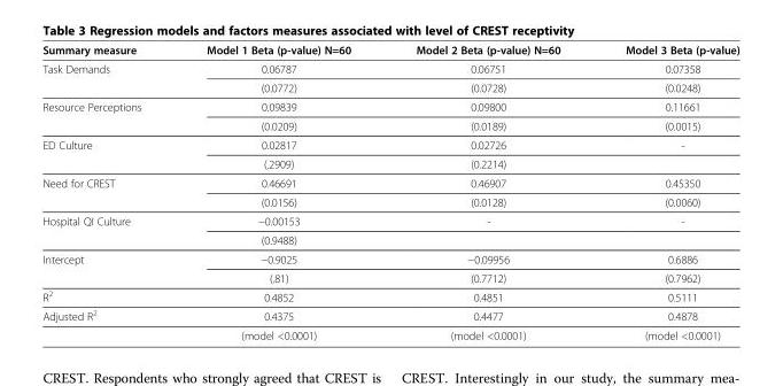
<table><thead><tr><td>Summary measure</td><td>Model 1 Beta (p-value) N=60</td><td>Model 2 Beta (p-value) N=60</td><td>Model 3 Beta (p-value)</td></tr></thead><tbody><tr><td rowspan="2">Task Demands</td><td>0.06787</td><td>0.06751</td><td>0.07358</td></tr><tr><td>(0.0772)</td><td>(0.0728)</td><td>(0.0248)</td></tr><tr><td rowspan="2">Resource Perceptions</td><td>0.09839</td><td>0.09800</td><td>0.11661</td></tr><tr><td>(0.0209)</td><td>(0.0189)</td><td>(0.0015)</td></tr><tr><td rowspan="2">ED Culture</td><td>0.02817</td><td>0.02726</td><td>-</td></tr><tr><td>(.2909)</td><td>(0.2214)</td><td></td></tr><tr><td rowspan="2">Need for CREST</td><td>0.46691</td><td>0.46907</td><td>0.45350</td></tr><tr><td>(0.0156)</td><td>(0.0128)</td><td>(0.0060)</td></tr><tr><td rowspan="2">Hospital QI Culture</td><td>−0.00153</td><td>-</td><td>-</td></tr><tr><td>(0.9488)</td><td></td><td></td></tr><tr><td rowspan="2">Intercept</td><td>−0.9025</td><td>−0.09956</td><td>0.6886</td></tr><tr><td>(.81)</td><td>(0.7712)</td><td>(0.7962)</td></tr><tr><td>R<sup>2</sup></td><td>0.4852</td><td>0.4851</td><td>0.5111</td></tr><tr><td rowspan="2">Adjusted R<sup>2</sup></td><td>0.4375</td><td>0.4477</td><td>0.4878</td></tr><tr><td>(model &lt;0.0001)</td><td>(model &lt;0.0001)</td><td>(model &lt;0.0001)</td></tr></tbody></table>